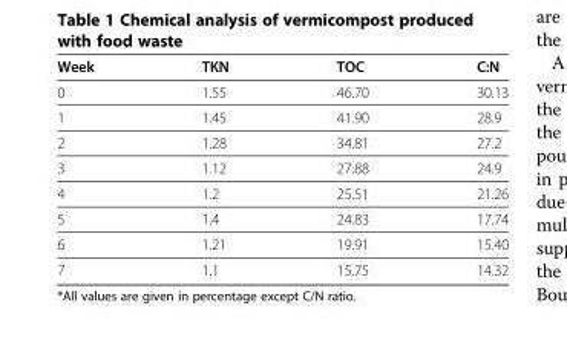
<table><thead><tr><td>Week</td><td>TKN</td><td>TOC</td><td>C:N</td></tr></thead><tbody><tr><td>0</td><td>1.55</td><td>46.70</td><td>30.13</td></tr><tr><td>1</td><td>1.45</td><td>41.90</td><td>28.9</td></tr><tr><td>2</td><td>1.28</td><td>34.81</td><td>27.2</td></tr><tr><td>3</td><td>1.12</td><td>27.88</td><td>24.9</td></tr><tr><td>4</td><td>1.2</td><td>25.51</td><td>21.26</td></tr><tr><td>5</td><td>1.4</td><td>24.83</td><td>17.74</td></tr><tr><td>6</td><td>1.21</td><td>19.91</td><td>15.40</td></tr><tr><td>7</td><td>1.1</td><td>15.75</td><td>14.32</td></tr></tbody></table>